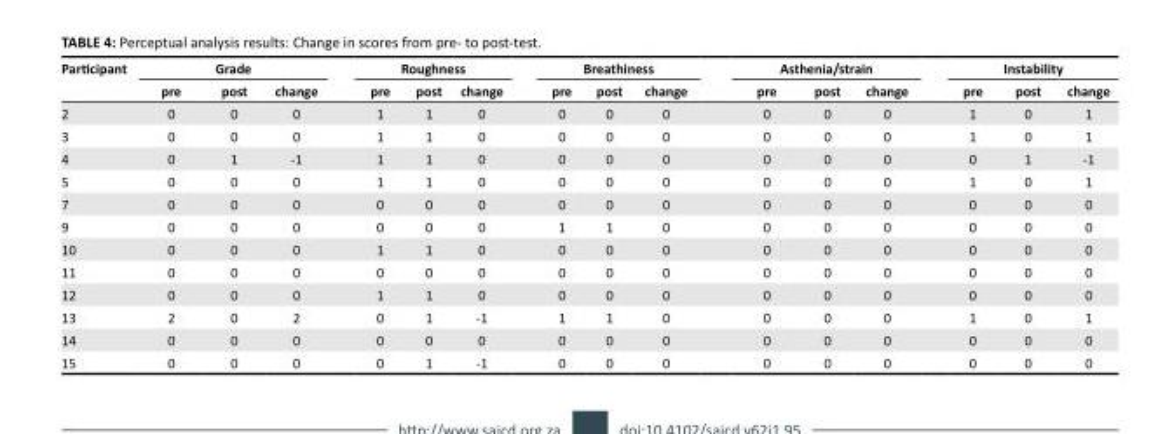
<table><thead><tr><td rowspan="2">Participant</td><td colspan="3">Grade</td><td colspan="3">Roughness</td><td colspan="3">Breathiness</td><td colspan="3">Asthenia/strain</td><td colspan="3">Instability</td></tr><tr><td>pre</td><td>post</td><td>change</td><td>pre</td><td>post</td><td>change</td><td>pre</td><td>post</td><td>change</td><td>pre</td><td>post</td><td>change</td><td>pre</td><td>post</td><td>change</td></tr></thead><tbody><tr><td>2</td><td>0</td><td>0</td><td>0</td><td>1</td><td>1</td><td>0</td><td>0</td><td>0</td><td>0</td><td>0</td><td>0</td><td>0</td><td>1</td><td>0</td><td>1</td></tr><tr><td>3</td><td>0</td><td>0</td><td>0</td><td>1</td><td>1</td><td>0</td><td>0</td><td>0</td><td>0</td><td>0</td><td>0</td><td>0</td><td>1</td><td>0</td><td>1</td></tr><tr><td>4</td><td>0</td><td>1</td><td>-1</td><td>1</td><td>1</td><td>0</td><td>0</td><td>0</td><td>0</td><td>0</td><td>0</td><td>0</td><td>0</td><td>1</td><td>-1</td></tr><tr><td>5</td><td>0</td><td>0</td><td>0</td><td>1</td><td>1</td><td>0</td><td>0</td><td>0</td><td>0</td><td>0</td><td>0</td><td>0</td><td>1</td><td>0</td><td>1</td></tr><tr><td>7</td><td>0</td><td>0</td><td>0</td><td>0</td><td>0</td><td>0</td><td>0</td><td>0</td><td>0</td><td>0</td><td>0</td><td>0</td><td>0</td><td>0</td><td>0</td></tr><tr><td>9</td><td>0</td><td>0</td><td>0</td><td>0</td><td>0</td><td>0</td><td>1</td><td>1</td><td>0</td><td>0</td><td>0</td><td>0</td><td>0</td><td>0</td><td>0</td></tr><tr><td>10</td><td>0</td><td>0</td><td>0</td><td>1</td><td>1</td><td>0</td><td>0</td><td>0</td><td>0</td><td>0</td><td>0</td><td>0</td><td>0</td><td>0</td><td>0</td></tr><tr><td>11</td><td>0</td><td>0</td><td>0</td><td>0</td><td>0</td><td>0</td><td>0</td><td>0</td><td>0</td><td>0</td><td>0</td><td>0</td><td>0</td><td>0</td><td>0</td></tr><tr><td>12</td><td>0</td><td>0</td><td>0</td><td>1</td><td>1</td><td>0</td><td>0</td><td>0</td><td>0</td><td>0</td><td>0</td><td>0</td><td>0</td><td>0</td><td>0</td></tr><tr><td>13</td><td>2</td><td>0</td><td>2</td><td>0</td><td>1</td><td>-1</td><td>1</td><td>1</td><td>0</td><td>0</td><td>0</td><td>0</td><td>1</td><td>0</td><td>1</td></tr><tr><td>14</td><td>0</td><td>0</td><td>0</td><td>0</td><td>0</td><td>0</td><td>0</td><td>0</td><td>0</td><td>0</td><td>0</td><td>0</td><td>0</td><td>0</td><td>0</td></tr><tr><td>15</td><td>0</td><td>0</td><td>0</td><td>0</td><td>1</td><td>-1</td><td>0</td><td>0</td><td>0</td><td>0</td><td>0</td><td>0</td><td>0</td><td>0</td><td>0</td></tr></tbody></table>